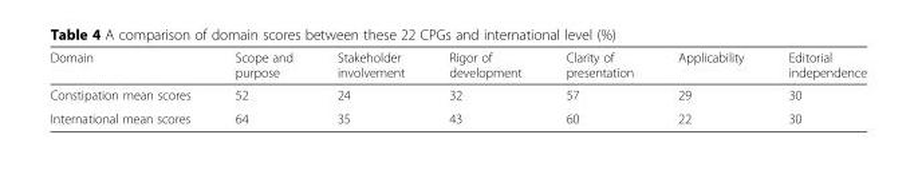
<table><thead><tr><td>Domain</td><td>Scope and purpose</td><td>Stakeholder involvement</td><td>Rigor of development</td><td>Clarity of presentation</td><td>Applicability</td><td>Editorial independence</td></tr></thead><tbody><tr><td>Constipation mean scores</td><td>52</td><td>24</td><td>32</td><td>57</td><td>29</td><td>30</td></tr><tr><td>International mean scores</td><td>64</td><td>35</td><td>43</td><td>60</td><td>22</td><td>30</td></tr></tbody></table>